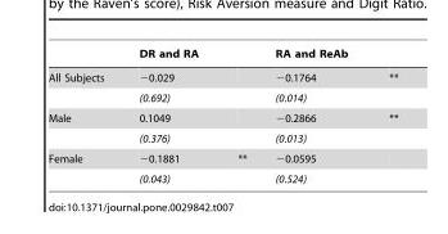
<table><thead><tr><td></td><td>DR and RA</td><td></td><td>RA and ReAb</td><td></td></tr></thead><tbody><tr><td rowspan="2">All Subjects</td><td>−0.029</td><td></td><td>−0.1764</td><td>**</td></tr><tr><td>(0.692)</td><td></td><td>(0.014)</td><td></td></tr><tr><td rowspan="2">Male</td><td>0.1049</td><td></td><td>−0.2866</td><td>**</td></tr><tr><td>(0.376)</td><td></td><td>(0.013)</td><td></td></tr><tr><td rowspan="2">Female</td><td>−0.1881</td><td>**</td><td>−0.0595</td><td></td></tr><tr><td>(0.043)</td><td></td><td>(0.524)</td><td></td></tr></tbody></table>